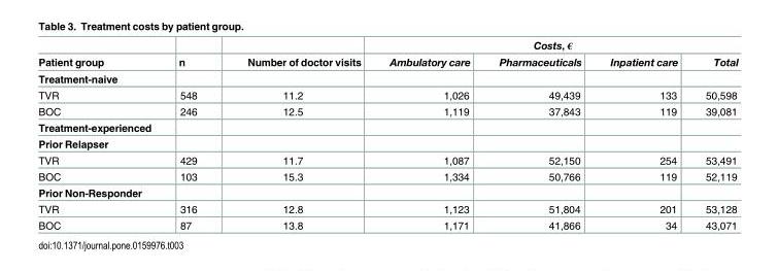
<table><thead><tr><td rowspan="2">Patient group</td><td rowspan="2">n</td><td rowspan="2">Number of doctor visits</td><td colspan="4">Costs, €</td></tr><tr><td>Ambulatory care</td><td>Pharmaceuticals</td><td>Inpatient care</td><td>Total</td></tr></thead><tbody><tr><td colspan="7">Treatment-naive</td></tr><tr><td>TVR</td><td>548</td><td>11.2</td><td>1,026</td><td>49,439</td><td>133</td><td>50,598</td></tr><tr><td>BOC</td><td>246</td><td>12.5</td><td>1,119</td><td>37,843</td><td>119</td><td>39,081</td></tr><tr><td colspan="7">Treatment-experienced</td></tr><tr><td colspan="7">Prior Relapser</td></tr><tr><td>TVR</td><td>429</td><td>11.7</td><td>1,087</td><td>52,150</td><td>254</td><td>53,491</td></tr><tr><td>BOC</td><td>103</td><td>15.3</td><td>1,334</td><td>50,766</td><td>119</td><td>52,119</td></tr><tr><td colspan="7">Prior Non-Responder</td></tr><tr><td>TVR</td><td>316</td><td>12.8</td><td>1,123</td><td>51,804</td><td>201</td><td>53,128</td></tr><tr><td>BOC</td><td>87</td><td>13.8</td><td>1,171</td><td>41,866</td><td>34</td><td>43,071</td></tr></tbody></table>